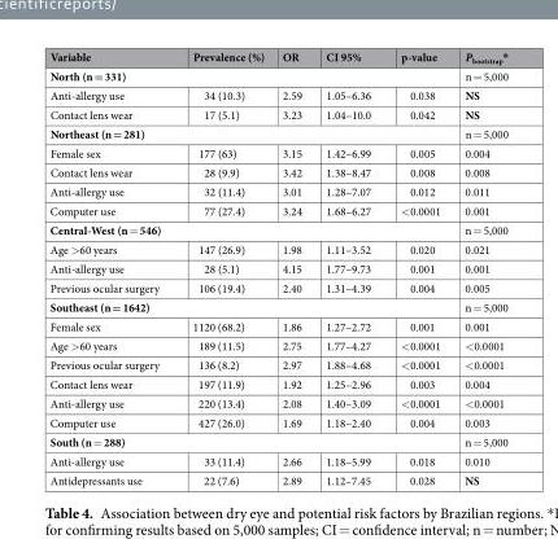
<table><thead><tr><td>Variable</td><td>Prevalence (%)</td><td>OR</td><td>CI 95%</td><td>p-value</td><td>P<sub>bootstrap</sub>*</td></tr></thead><tbody><tr><td colspan="5">North (n = 331)</td><td>n = 5,000</td></tr><tr><td>Anti-allergy use</td><td>34 (10.3)</td><td>2.59</td><td>1.05–6.36</td><td>0.038</td><td>NS</td></tr><tr><td>Contact lens wear</td><td>17 (5.1)</td><td>3.23</td><td>1.04–10.0</td><td>0.042</td><td>NS</td></tr><tr><td colspan="5">Northeast (n = 281)</td><td>n = 5,000</td></tr><tr><td>Female sex</td><td>177 (63)</td><td>3.15</td><td>1.42–6.99</td><td>0.005</td><td>0.004</td></tr><tr><td>Contact lens wear</td><td>28 (9.9)</td><td>3.42</td><td>1.38–8.47</td><td>0.008</td><td>0.008</td></tr><tr><td>Anti-allergy use</td><td>32 (11.4)</td><td>3.01</td><td>1.28–7.07</td><td>0.012</td><td>0.011</td></tr><tr><td>Computer use</td><td>77 (27.4)</td><td>3.24</td><td>1.68–6.27</td><td>&lt;0.0001</td><td>0.001</td></tr><tr><td colspan="5">Central-West (n = 546)</td><td>n = 5,000</td></tr><tr><td>Age &gt;60 years</td><td>147 (26.9)</td><td>1.98</td><td>1.11–3.52</td><td>0.020</td><td>0.021</td></tr><tr><td>Anti-allergy use</td><td>28 (5.1)</td><td>4.15</td><td>1.77–9.73</td><td>0.001</td><td>0.001</td></tr><tr><td>Previous ocular surgery</td><td>106 (19.4)</td><td>2.40</td><td>1.31–4.39</td><td>0.004</td><td>0.005</td></tr><tr><td colspan="5">Southeast (n = 1642)</td><td>n = 5,000</td></tr><tr><td>Female sex</td><td>1120 (68.2)</td><td>1.86</td><td>1.27–2.72</td><td>0.001</td><td>0.001</td></tr><tr><td>Age &gt;60 years</td><td>189 (11.5)</td><td>2.75</td><td>1.77–4.27</td><td>&lt;0.0001</td><td>&lt;0.0001</td></tr><tr><td>Previous ocular surgery</td><td>136 (8.2)</td><td>2.97</td><td>1.88–4.68</td><td>&lt;0.0001</td><td>&lt;0.0001</td></tr><tr><td>Contact lens wear</td><td>197 (11.9)</td><td>1.92</td><td>1.25–2.96</td><td>0.003</td><td>0.004</td></tr><tr><td>Anti-allergy use</td><td>220 (13.4)</td><td>2.08</td><td>1.40–3.09</td><td>&lt;0.0001</td><td>&lt;0.0001</td></tr><tr><td>Computer use</td><td>427 (26.0)</td><td>1.69</td><td>1.18–2.40</td><td>0.004</td><td>0.003</td></tr><tr><td colspan="5">South (n = 288)</td><td>n = 5,000</td></tr><tr><td>Anti-allergy use</td><td>33 (11.4)</td><td>2.66</td><td>1.18–5.99</td><td>0.018</td><td>0.010</td></tr><tr><td>Antidepressants use</td><td>22 (7.6)</td><td>2.89</td><td>1.12–7.45</td><td>0.028</td><td>NS</td></tr></tbody></table>